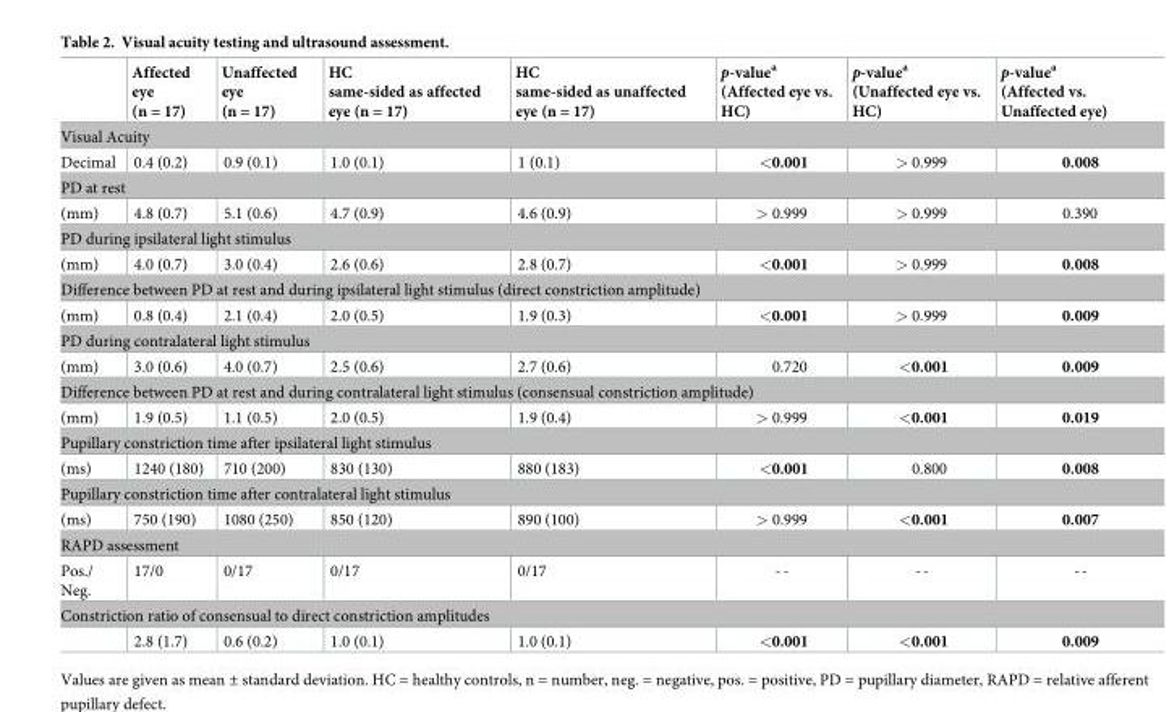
<table><thead><tr><td></td><td>Affected eye (n = 17)</td><td>Unaffected eye (n = 17)</td><td>HC same-sided as affected eye (n = 17)</td><td>HC same-sided as unaffected eye (n = 17)</td><td>p-value<sup>a</sup> (Affected eye vs. HC)</td><td>p-value<sup>a</sup> (Unaffected eye vs. HC)</td><td>p-value<sup>a</sup> (Affected vs. Unaffected eye)</td></tr></thead><tbody><tr><td colspan="8">Visual Acuity</td></tr><tr><td>Decimal</td><td>0.4 (0.2)</td><td>0.9 (0.1)</td><td>1.0 (0.1)</td><td>1 (0.1)</td><td>&lt;0.001</td><td>&gt; 0.999</td><td>0.008</td></tr><tr><td colspan="8">PD at rest</td></tr><tr><td>(mm)</td><td>4.8 (0.7)</td><td>5.1 (0.6)</td><td>4.7 (0.9)</td><td>4.6 (0.9)</td><td>&gt; 0.999</td><td>&gt; 0.999</td><td>0.390</td></tr><tr><td colspan="8">PD during ipsilateral light stimulus</td></tr><tr><td>(mm)</td><td>4.0 (0.7)</td><td>3.0 (0.4)</td><td>2.6 (0.6)</td><td>2.8 (0.7)</td><td>&lt;0.001</td><td>&gt; 0.999</td><td>0.008</td></tr><tr><td colspan="8">Difference between PD at rest and during ipsilateral light stimulus (direct constriction amplitude)</td></tr><tr><td>(mm)</td><td>0.8 (0.4)</td><td>2.1 (0.4)</td><td>2.0 (0.5)</td><td>1.9 (0.3)</td><td>&lt;0.001</td><td>&gt; 0.999</td><td>0.009</td></tr><tr><td colspan="8">PD during contralateral light stimulus</td></tr><tr><td>(mm)</td><td>3.0 (0.6)</td><td>4.0 (0.7)</td><td>2.5 (0.6)</td><td>2.7 (0.6)</td><td>0.720</td><td>&lt;0.001</td><td>0.009</td></tr><tr><td colspan="8">Difference between PD at rest and during contralateral light stimulus (consensual constriction amplitude)</td></tr><tr><td>(mm)</td><td>1.9 (0.5)</td><td>1.1 (0.5)</td><td>2.0 (0.5)</td><td>1.9 (0.4)</td><td>&gt; 0.999</td><td>&lt;0.001</td><td>0.019</td></tr><tr><td colspan="8">Pupillary constriction time after ipsilateral light stimulus</td></tr><tr><td>(ms)</td><td>1240 (180)</td><td>710 (200)</td><td>830 (130)</td><td>880 (183)</td><td>&lt;0.001</td><td>0.800</td><td>0.008</td></tr><tr><td colspan="8">Pupillary constriction time after contralateral light stimulus</td></tr><tr><td>(ms)</td><td>750 (190)</td><td>1080 (250)</td><td>850 (120)</td><td>890 (100)</td><td>&gt; 0.999</td><td>&lt;0.001</td><td>0.007</td></tr><tr><td colspan="8">RAPD assessment</td></tr><tr><td>Pos./ Neg.</td><td>17/0</td><td>0/17</td><td>0/17</td><td>0/17</td><td>--</td><td>--</td><td>--</td></tr><tr><td colspan="8">Constriction ratio of consensual to direct constriction amplitudes</td></tr><tr><td></td><td>2.8 (1.7)</td><td>0.6 (0.2)</td><td>1.0 (0.1)</td><td>1.0 (0.1)</td><td>&lt;0.001</td><td>&lt;0.001</td><td>0.009</td></tr></tbody></table>